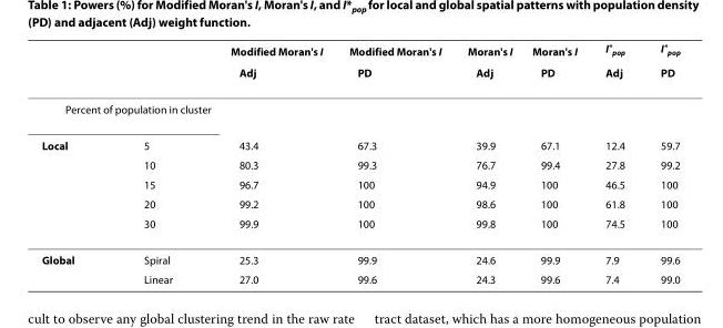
<table><thead><tr><td rowspan="2"></td><td rowspan="2"></td><td rowspan="2">Modified Moran&#x27;s I Adj</td><td rowspan="2">Modified Moran&#x27;s I PD</td><td rowspan="2">Moran&#x27;s I Adj</td><td rowspan="2">Moran&#x27;s I PD</td><td rowspan="2">I*<sub>pop</sub> Adj</td><td rowspan="2">I*<sub>pop</sub> PD</td></tr><tr></tr></thead><tbody><tr><td colspan="8">Percent of population in cluster</td></tr><tr><td rowspan="5">Local</td><td>5</td><td>43.4</td><td>67.3</td><td>39.9</td><td>67.1</td><td>12.4</td><td>59.7</td></tr><tr><td>10</td><td>80.3</td><td>99.3</td><td>76.7</td><td>99.4</td><td>27.8</td><td>99.2</td></tr><tr><td>15</td><td>96.7</td><td>100</td><td>94.9</td><td>100</td><td>46.5</td><td>100</td></tr><tr><td>20</td><td>99.2</td><td>100</td><td>98.6</td><td>100</td><td>61.8</td><td>100</td></tr><tr><td>30</td><td>99.9</td><td>100</td><td>99.8</td><td>100</td><td>74.5</td><td>100</td></tr><tr><td rowspan="2">Global</td><td>Spiral</td><td>25.3</td><td>99.9</td><td>24.6</td><td>99.9</td><td>7.9</td><td>99.6</td></tr><tr><td>Linear</td><td>27.0</td><td>99.6</td><td>24.3</td><td>99.6</td><td>7.4</td><td>99.0</td></tr></tbody></table>